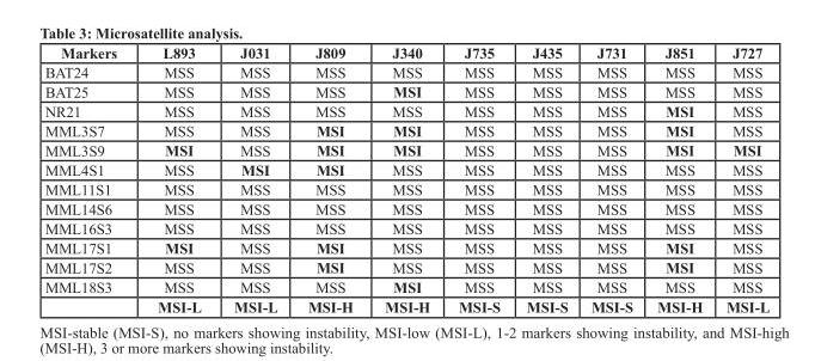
<table><thead><tr><td>Markers</td><td>L893</td><td>J031</td><td>J809</td><td>J340</td><td>J735</td><td>J435</td><td>J731</td><td>J851</td><td>J727</td></tr></thead><tbody><tr><td>BAT24</td><td>MSS</td><td>MSS</td><td>MSS</td><td>MSS</td><td>MSS</td><td>MSS</td><td>MSS</td><td>MSS</td><td>MSS</td></tr><tr><td>BAT25</td><td>MSS</td><td>MSS</td><td>MSS</td><td>MSI</td><td>MSS</td><td>MSS</td><td>MSS</td><td>MSS</td><td>MSS</td></tr><tr><td>NR21</td><td>MSS</td><td>MSS</td><td>MSS</td><td>MSS</td><td>MSS</td><td>MSS</td><td>MSS</td><td>MSI</td><td>MSS</td></tr><tr><td>MML3S7</td><td>MSS</td><td>MSS</td><td>MSI</td><td>MSI</td><td>MSS</td><td>MSS</td><td>MSS</td><td>MSI</td><td>MSS</td></tr><tr><td>MML3S9</td><td>MSI</td><td>MSS</td><td>MSI</td><td>MSI</td><td>MSS</td><td>MSS</td><td>MSS</td><td>MSI</td><td>MSI</td></tr><tr><td>MML4S1</td><td>MSS</td><td>MSI</td><td>MSI</td><td>MSS</td><td>MSS</td><td>MSS</td><td>MSS</td><td>MSS</td><td>MSS</td></tr><tr><td>MML11S1</td><td>MSS</td><td>MSS</td><td>MSS</td><td>MSS</td><td>MSS</td><td>MSS</td><td>MSS</td><td>MSS</td><td>MSS</td></tr><tr><td>MML14S6</td><td>MSS</td><td>MSS</td><td>MSS</td><td>MSS</td><td>MSS</td><td>MSS</td><td>MSS</td><td>MSS</td><td>MSS</td></tr><tr><td>MML16S3</td><td>MSS</td><td>MSS</td><td>MSS</td><td>MSS</td><td>MSS</td><td>MSS</td><td>MSS</td><td>MSS</td><td>MSS</td></tr><tr><td>MML17S1</td><td>MSI</td><td>MSS</td><td>MSI</td><td>MSS</td><td>MSS</td><td>MSS</td><td>MSS</td><td>MSI</td><td>MSS</td></tr><tr><td>MML17S2</td><td>MSS</td><td>MSS</td><td>MSI</td><td>MSS</td><td>MSS</td><td>MSS</td><td>MSS</td><td>MSI</td><td>MSS</td></tr><tr><td rowspan="2">MML18S3</td><td>MSS</td><td>MSS</td><td>MSS</td><td>MSI</td><td>MSS</td><td>MSS</td><td>MSS</td><td>MSS</td><td>MSS</td></tr><tr><td>MSI-L</td><td>MSI-L</td><td>MSI-H</td><td>MSI-H</td><td>MSI-S</td><td>MSI-S</td><td>MSI-S</td><td>MSI-H</td><td>MSI-L</td></tr></tbody></table>